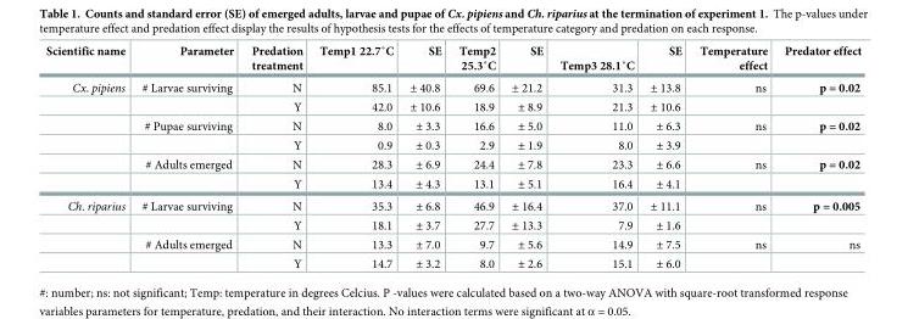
<table><thead><tr><td>Scientific name</td><td>Parameter</td><td>Predation treatment</td><td>Temp1 22.7˚C</td><td>SE</td><td>Temp2 25.3˚C</td><td>SE</td><td>Temp3 28.1˚C</td><td>SE</td><td>Temperature effect</td><td>Predator effect</td></tr></thead><tbody><tr><td rowspan="6">Cx. pipiens</td><td># Larvae surviving</td><td>N</td><td>85.1</td><td>± 40.8</td><td>69.6</td><td>± 21.2</td><td>31.3</td><td>± 13.8</td><td>ns</td><td>p = 0.02</td></tr><tr><td></td><td>Y</td><td>42.0</td><td>± 10.6</td><td>18.9</td><td>± 8.9</td><td>21.3</td><td>± 10.6</td><td></td><td></td></tr><tr><td># Pupae surviving</td><td>N</td><td>8.0</td><td>± 3.3</td><td>16.6</td><td>± 5.0</td><td>11.0</td><td>± 6.3</td><td>ns</td><td>p = 0.02</td></tr><tr><td></td><td>Y</td><td>0.9</td><td>± 0.3</td><td>2.9</td><td>± 1.9</td><td>8.0</td><td>± 3.9</td><td></td><td></td></tr><tr><td># Adults emerged</td><td>N</td><td>28.3</td><td>± 6.9</td><td>24.4</td><td>± 7.8</td><td>23.3</td><td>± 6.6</td><td>ns</td><td>p = 0.02</td></tr><tr><td></td><td>Y</td><td>13.4</td><td>± 4.3</td><td>13.1</td><td>± 5.1</td><td>16.4</td><td>± 4.1</td><td></td><td></td></tr><tr><td rowspan="4">Ch. riparius</td><td># Larvae surviving</td><td>N</td><td>35.3</td><td>± 6.8</td><td>46.9</td><td>± 16.4</td><td>37.0</td><td>± 11.1</td><td>ns</td><td>p = 0.005</td></tr><tr><td></td><td>Y</td><td>18.1</td><td>± 3.7</td><td>27.7</td><td>± 13.3</td><td>7.9</td><td>± 1.6</td><td></td><td></td></tr><tr><td># Adults emerged</td><td>N</td><td>13.3</td><td>± 7.0</td><td>9.7</td><td>± 5.6</td><td>14.9</td><td>± 7.5</td><td>ns</td><td>ns</td></tr><tr><td></td><td>Y</td><td>14.7</td><td>± 3.2</td><td>8.0</td><td>± 2.6</td><td>15.1</td><td>± 6.0</td><td></td><td></td></tr></tbody></table>